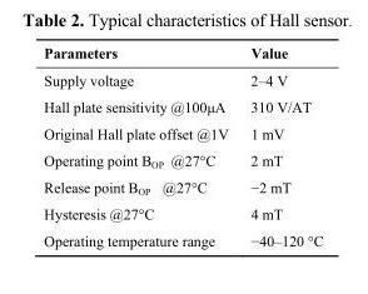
<table><thead><tr><td>Parameters</td><td>Value</td></tr></thead><tbody><tr><td>Supply voltage</td><td>2–4 V</td></tr><tr><td>Hall plate sensitivity @100μA</td><td>310 V/AT</td></tr><tr><td>Original Hall plate offset @1V</td><td>1 mV</td></tr><tr><td>Operating point B<sub>OP</sub> @27°C</td><td>2 mT</td></tr><tr><td>Release point B<sub>OP</sub> @27°C</td><td>−2 mT</td></tr><tr><td>Hysteresis @27°C</td><td>4 mT</td></tr><tr><td>Operating temperature range</td><td>−40–120 °C</td></tr></tbody></table>